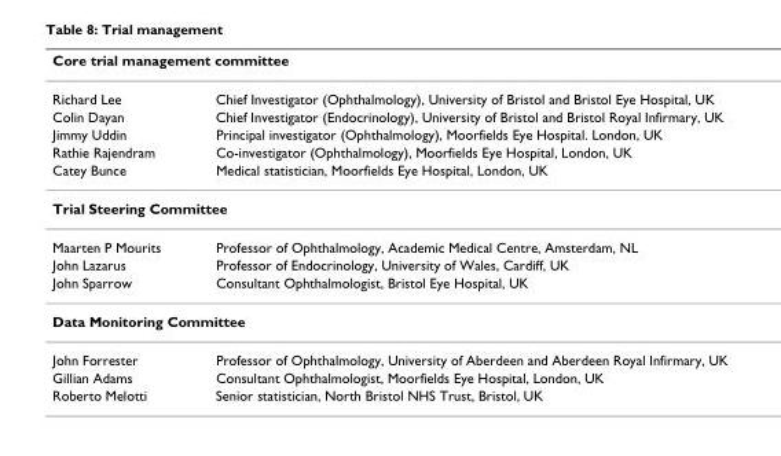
<table><thead><tr><td colspan="2">Core trial management committee</td></tr><tr><td>Richard Lee</td><td>Chief Investigator (Ophthalmology), University of Bristol and Bristol Eye Hospital, UK</td></tr></thead><tbody><tr><td>Colin Dayan</td><td>Chief Investigator (Endocrinology), University of Bristol and Bristol Royal Infirmary, UK</td></tr><tr><td>Jimmy Uddin</td><td>Principal investigator (Ophthalmology), Moorfields Eye Hospital. London, UK</td></tr><tr><td>Rathie Rajendram</td><td>Co-investigator (Ophthalmology), Moorfields Eye Hospital, London, UK</td></tr><tr><td>Catey Bunce</td><td>Medical statistician, Moorfields Eye Hospital, London, UK</td></tr><tr><td colspan="2">Trial Steering Committee</td></tr><tr><td>Maarten P Mourits</td><td>Professor of Ophthalmology, Academic Medical Centre, Amsterdam, NL</td></tr><tr><td>John Lazarus</td><td>Professor of Endocrinology, University of Wales, Cardiff, UK</td></tr><tr><td>John Sparrow</td><td>Consultant Ophthalmologist, Bristol Eye Hospital, UK</td></tr><tr><td colspan="2">Data Monitoring Committee</td></tr><tr><td>John Forrester</td><td>Professor of Ophthalmology, University of Aberdeen and Aberdeen Royal Infirmary, UK</td></tr><tr><td>Gillian Adams</td><td>Consultant Ophthalmologist, Moorfields Eye Hospital, London, UK</td></tr><tr><td>Roberto Melotti</td><td>Senior statistician, North Bristol NHS Trust, Bristol, UK</td></tr></tbody></table>